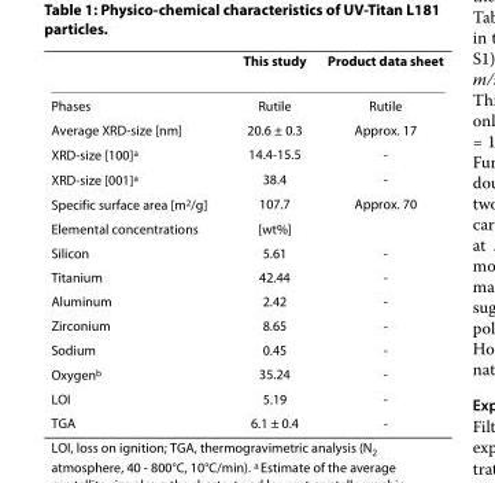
<table><thead><tr><td></td><td>This study</td><td>Product data sheet</td></tr></thead><tbody><tr><td>Phases</td><td>Rutile</td><td>Rutile</td></tr><tr><td>Average XRD-size [nm]</td><td>20.6 ± 0.3</td><td>Approx. 17</td></tr><tr><td>XRD-size [100]<sup>a</sup></td><td>14.4-15.5</td><td>-</td></tr><tr><td>XRD-size [001]<sup>a</sup></td><td>38.4</td><td>-</td></tr><tr><td>Specific surface area [m<sup>2</sup>/g]</td><td>107.7</td><td>Approx. 70</td></tr><tr><td>Elemental concentrations</td><td>[wt%]</td><td></td></tr><tr><td>Silicon</td><td>5.61</td><td>-</td></tr><tr><td>Titanium</td><td>42.44</td><td>-</td></tr><tr><td>Aluminum</td><td>2.42</td><td>-</td></tr><tr><td>Zirconium</td><td>8.65</td><td>-</td></tr><tr><td>Sodium</td><td>0.45</td><td>-</td></tr><tr><td>Oxygen<sup>b</sup></td><td>35.24</td><td>-</td></tr><tr><td>LOI</td><td>5.19</td><td>-</td></tr><tr><td>TGA</td><td>6.1 ± 0.4</td><td>-</td></tr></tbody></table>